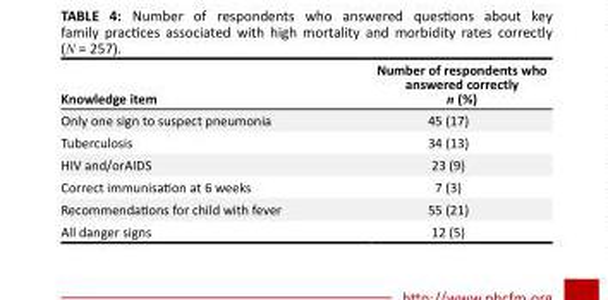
<table><thead><tr><td>Knowledge item</td><td>Number of respondents who answered correctly n (%)</td></tr></thead><tbody><tr><td>Only one sign to suspect pneumonia</td><td>45 (17)</td></tr><tr><td>Tuberculosis</td><td>34 (13)</td></tr><tr><td>HIV and/orAIDS</td><td>23 (9)</td></tr><tr><td>Correct immunisation at 6 weeks</td><td>7 (3)</td></tr><tr><td>Recommendations for child with fever</td><td>55 (21)</td></tr><tr><td>All danger signs</td><td>12 (5)</td></tr></tbody></table>